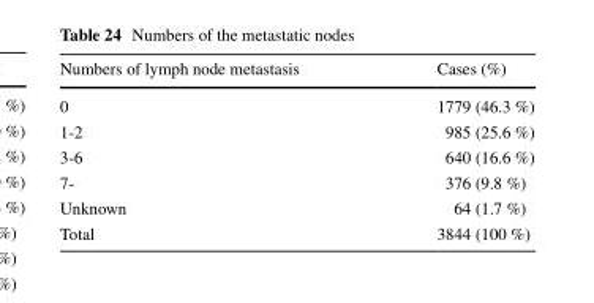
<table><thead><tr><td>Numbers of lymph node metastasis</td><td>Cases (%)</td></tr></thead><tbody><tr><td>0</td><td>1779 (46.3 %)</td></tr><tr><td>1-2</td><td>985 (25.6 %)</td></tr><tr><td>3-6</td><td>640 (16.6 %)</td></tr><tr><td>7-</td><td>376 (9.8 %)</td></tr><tr><td>Unknown</td><td>64 (1.7 %)</td></tr><tr><td>Total</td><td>3844 (100 %)</td></tr></tbody></table>